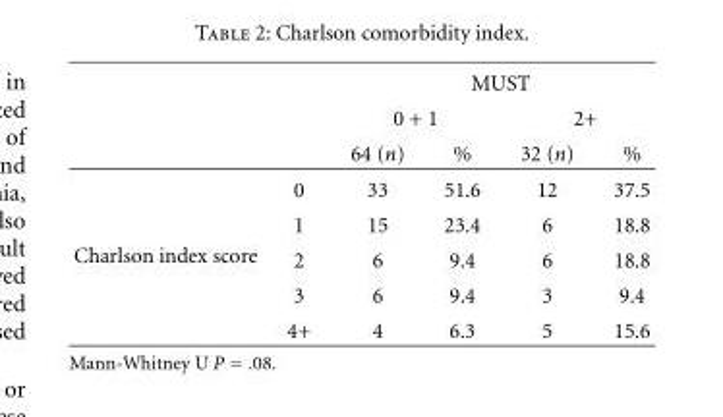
<table><thead><tr><td rowspan="3"></td><td rowspan="3"></td><td colspan="4">MUST</td></tr><tr><td colspan="2">0 + 1</td><td colspan="2">2+</td></tr><tr><td>64 (n)</td><td>%</td><td>32 (n)</td><td>%</td></tr></thead><tbody><tr><td rowspan="5">Charlson index score</td><td>0</td><td>33</td><td>51.6</td><td>12</td><td>37.5</td></tr><tr><td>1</td><td>15</td><td>23.4</td><td>6</td><td>18.8</td></tr><tr><td>2</td><td>6</td><td>9.4</td><td>6</td><td>18.8</td></tr><tr><td>3</td><td>6</td><td>9.4</td><td>3</td><td>9.4</td></tr><tr><td>4+</td><td>4</td><td>6.3</td><td>5</td><td>15.6</td></tr></tbody></table>